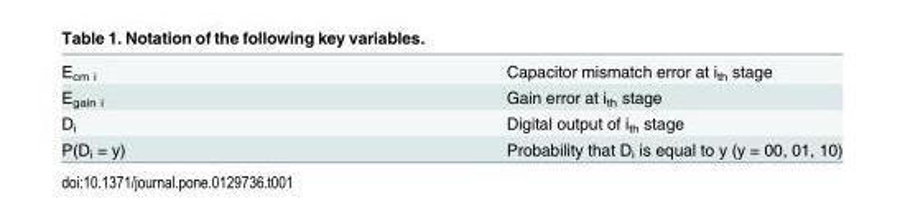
<table><tbody><tr><td>E<sub>cm i</sub></td><td>Capacitor mismatch error at i<sub>th</sub> stage</td></tr><tr><td>E<sub>gain i</sub></td><td>Gain error at i<sub>th</sub> stage</td></tr><tr><td>D<sub>i</sub></td><td>Digital output of i<sub>th</sub> stage</td></tr><tr><td>P(D<sub>i</sub> = y)</td><td>Probability that D<sub>i</sub> is equal to y (y = 00, 01, 10)</td></tr></tbody></table>